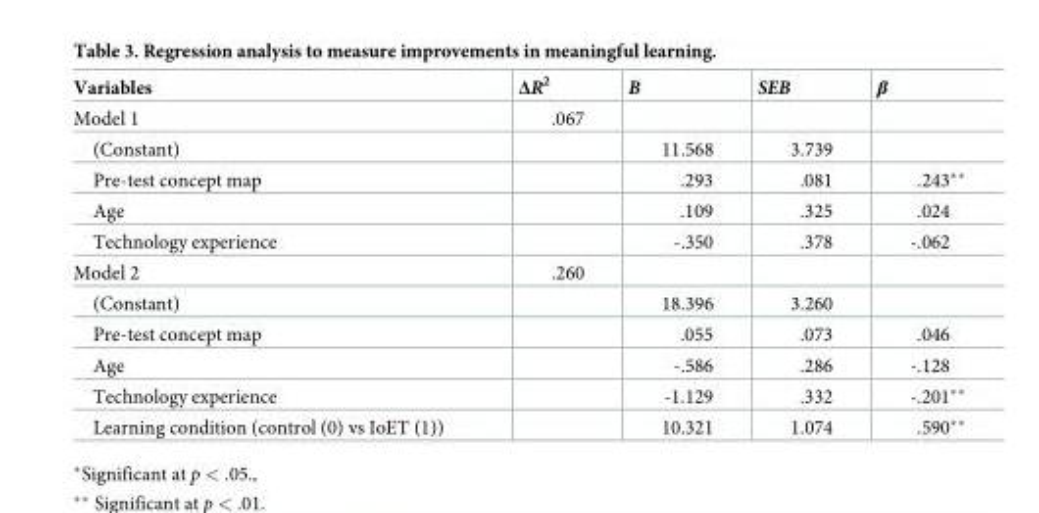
<table><thead><tr><td>Variables</td><td>ΔR<sup>2</sup></td><td>B</td><td>SEB</td><td>β</td></tr></thead><tbody><tr><td>Model 1</td><td>.067</td><td></td><td></td><td></td></tr><tr><td>(Constant)</td><td></td><td>11.568</td><td>3.739</td><td></td></tr><tr><td>Pre-test concept map</td><td></td><td>.293</td><td>.081</td><td>.243**</td></tr><tr><td>Age</td><td></td><td>.109</td><td>.325</td><td>.024</td></tr><tr><td>Technology experience</td><td></td><td>-.350</td><td>.378</td><td>-.062</td></tr><tr><td>Model 2</td><td>.260</td><td></td><td></td><td></td></tr><tr><td>(Constant)</td><td></td><td>18.396</td><td>3.260</td><td></td></tr><tr><td>Pre-test concept map</td><td></td><td>.055</td><td>.073</td><td>.046</td></tr><tr><td>Age</td><td></td><td>-.586</td><td>.286</td><td>-.128</td></tr><tr><td>Technology experience</td><td></td><td>-1.129</td><td>.332</td><td>-.201**</td></tr><tr><td>Learning condition (control (0) vs IoET (1))</td><td></td><td>10.321</td><td>1.074</td><td>.590**</td></tr></tbody></table>